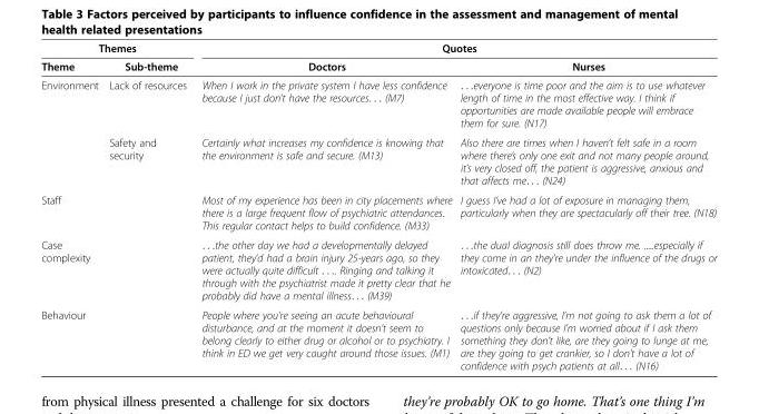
<table><thead><tr><td colspan="2">Themes</td><td colspan="2">Quotes</td></tr><tr><td>Theme</td><td>Sub-theme</td><td>Doctors</td><td>Nurses</td></tr></thead><tbody><tr><td rowspan="2">Environment</td><td>Lack of resources</td><td>When I work in the private system I have less confidence because I just don’t have the resources. . . (M7)</td><td>. . .everyone is time poor and the aim is to use whatever length of time in the most effective way. I think if opportunities are made available people will embrace them for sure. (N17)</td></tr><tr><td>Safety and security</td><td>Certainly what increases my confidence is knowing that the environment is safe and secure. (M13)</td><td>Also there are times when I haven’t felt safe in a room where there’s only one exit and not many people around, it’s very closed off, the patient is aggressive, anxious and that affects me. . . (N24)</td></tr><tr><td>Staff</td><td></td><td>Most of my experience has been in city placements where there is a large frequent flow of psychiatric attendances. This regular contact helps to build confidence. (M33)</td><td>I guess I’ve had a lot of exposure in managing them, particularly when they are spectacularly off their tree. (N18)</td></tr><tr><td>Case complexity</td><td></td><td>. . .the other day we had a developmentally delayed patient, they’d had a brain injury 25-years ago, so they were actually quite difficult . . .. Ringing and talking it through with the psychiatrist made it pretty clear that he probably did have a mental illness. . . (M39)</td><td>. . .the dual diagnosis still does throw me. .....especially if they come in an they’re under the influence of the drugs or intoxicated. . . (N2)</td></tr><tr><td>Behaviour</td><td></td><td>People where you’re seeing an acute behavioural disturbance, and at the moment it doesn’t seem to belong clearly to either drug or alcohol or to psychiatry. I think in ED we get very caught around those issues. (M1)</td><td>. . .if they’re aggressive, I’m not going to ask them a lot of questions only because I’m worried about if I ask them something they don’t like, are they going to lunge at me, are they going to get crankier, so I don’t have a lot of confidence with psych patients at all. . . (N16)</td></tr></tbody></table>